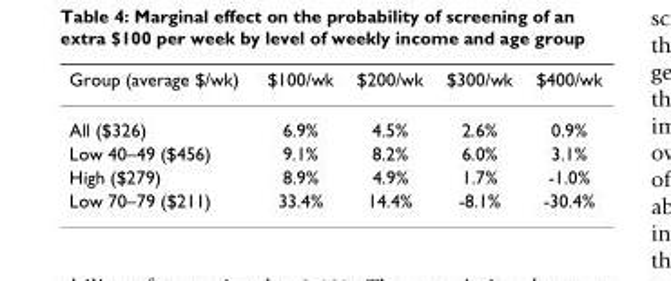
<table><thead><tr><td>Group (average $/wk)</td><td>$100/wk</td><td>$200/wk</td><td>$300/wk</td><td>$400/wk</td></tr></thead><tbody><tr><td>All ($326)</td><td>6.9%</td><td>4.5%</td><td>2.6%</td><td>0.9%</td></tr><tr><td>Low 40–49 ($456)</td><td>9.1%</td><td>8.2%</td><td>6.0%</td><td>3.1%</td></tr><tr><td>High ($279)</td><td>8.9%</td><td>4.9%</td><td>1.7%</td><td>-1.0%</td></tr><tr><td>Low 70–79 ($211)</td><td>33.4%</td><td>14.4%</td><td>-8.1%</td><td>-30.4%</td></tr></tbody></table>